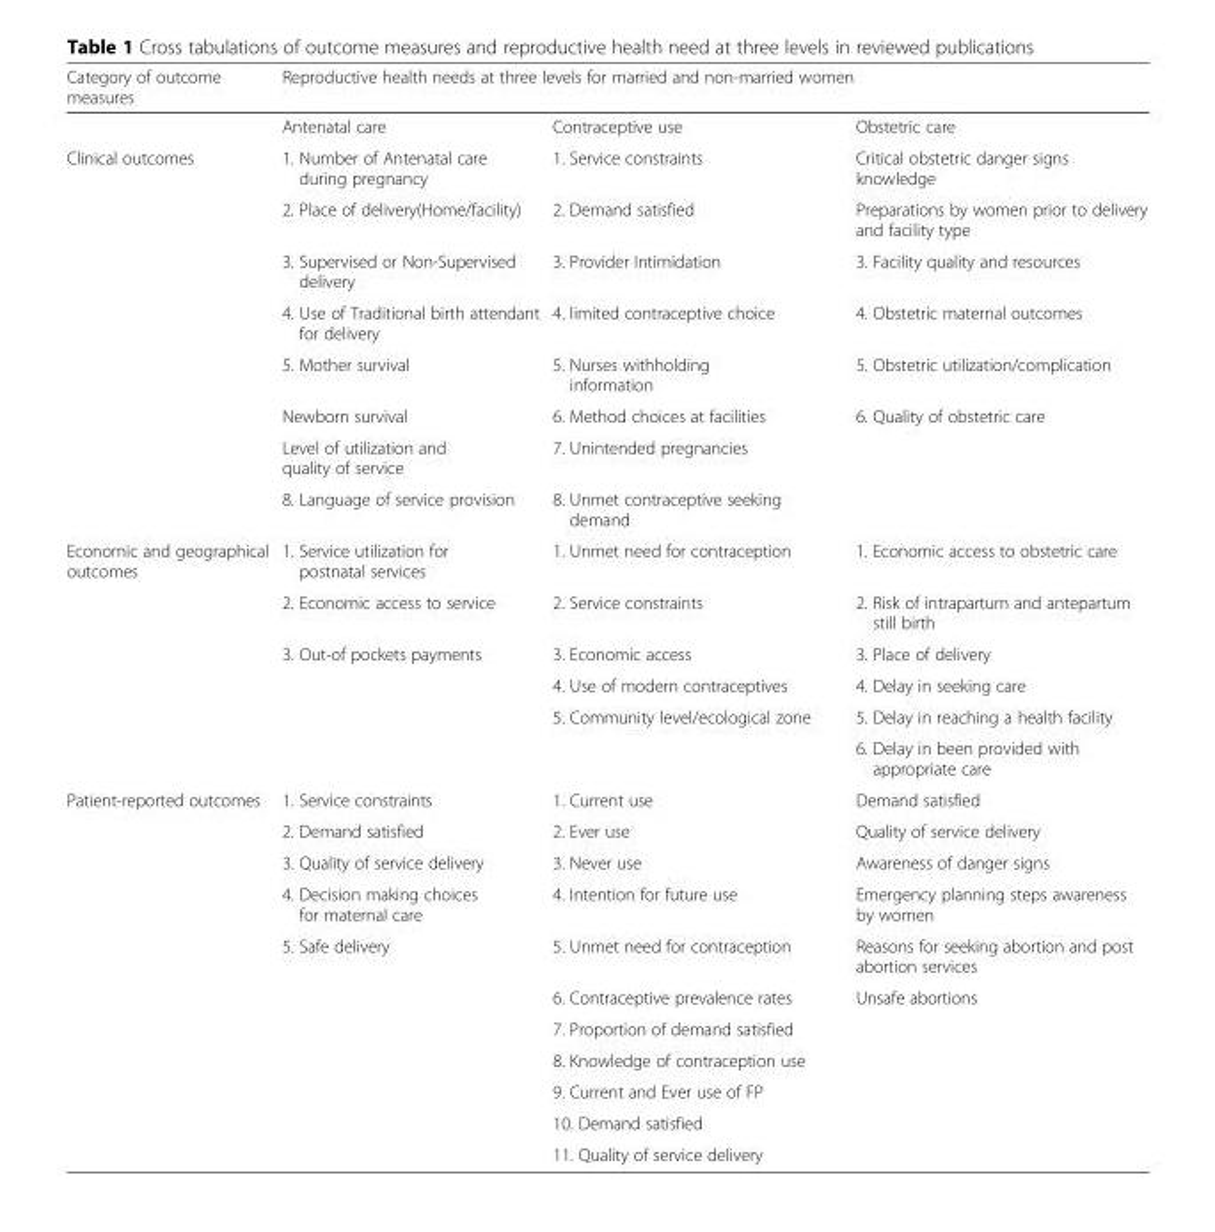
<table><thead><tr><td rowspan="2">Category of outcome measures</td><td colspan="3">Reproductive health needs at three levels for married and non-married women</td></tr><tr><td>Antenatal care</td><td>Contraceptive use</td><td>Obstetric care</td></tr></thead><tbody><tr><td rowspan="8">Clinical outcomes</td><td>1. Number of Antenatal care during pregnancy</td><td>1. Service constraints</td><td>Critical obstetric danger signs knowledge</td></tr><tr><td>2. Place of delivery(Home/facility)</td><td>2. Demand satisfied</td><td>Preparations by women prior to delivery and facility type</td></tr><tr><td>3. Supervised or Non-Supervised delivery</td><td>3. Provider Intimidation</td><td>3. Facility quality and resources</td></tr><tr><td>4. Use of Traditional birth attendant for delivery</td><td>4. limited contraceptive choice</td><td>4. Obstetric maternal outcomes</td></tr><tr><td>5. Mother survival</td><td>5. Nurses withholding information</td><td>5. Obstetric utilization/complication</td></tr><tr><td>Newborn survival</td><td>6. Method choices at facilities</td><td rowspan="3">6. Quality of obstetric care</td></tr><tr><td>Level of utilization and quality of service</td><td>7. Unintended pregnancies</td></tr><tr><td>8. Language of service provision</td><td>8. Unmet contraceptive seeking demand</td></tr><tr><td rowspan="6">Economic and geographical outcomes</td><td>1. Service utilization for postnatal services</td><td>1. Unmet need for contraception</td><td>1. Economic access to obstetric care</td></tr><tr><td>2. Economic access to service</td><td>2. Service constraints</td><td>2. Risk of intrapartum and antepartum still birth</td></tr><tr><td rowspan="4">3. Out-of pockets payments</td><td>3. Economic access</td><td>3. Place of delivery</td></tr><tr><td>4. Use of modern contraceptives</td><td>4. Delay in seeking care</td></tr><tr><td rowspan="2">5. Community level/ecological zone</td><td>5. Delay in reaching a health facility</td></tr><tr><td>6. Delay in been provided with appropriate care</td></tr><tr><td rowspan="11">Patient-reported outcomes</td><td>1. Service constraints</td><td>1. Current use</td><td>Demand satisfied</td></tr><tr><td>2. Demand satisfied</td><td>2. Ever use</td><td>Quality of service delivery</td></tr><tr><td>3. Quality of service delivery</td><td>3. Never use</td><td>Awareness of danger signs</td></tr><tr><td>4. Decision making choices for maternal care</td><td>4. Intention for future use</td><td>Emergency planning steps awareness by women</td></tr><tr><td rowspan="7">5. Safe delivery</td><td>5. Unmet need for contraception</td><td>Reasons for seeking abortion and post abortion services</td></tr><tr><td>6. Contraceptive prevalence rates</td><td rowspan="6">Unsafe abortions</td></tr><tr><td>7. Proportion of demand satisfied</td></tr><tr><td>8. Knowledge of contraception use</td></tr><tr><td>9. Current and Ever use of FP</td></tr><tr><td>10. Demand satisfied</td></tr><tr><td>11. Quality of service delivery</td></tr></tbody></table>